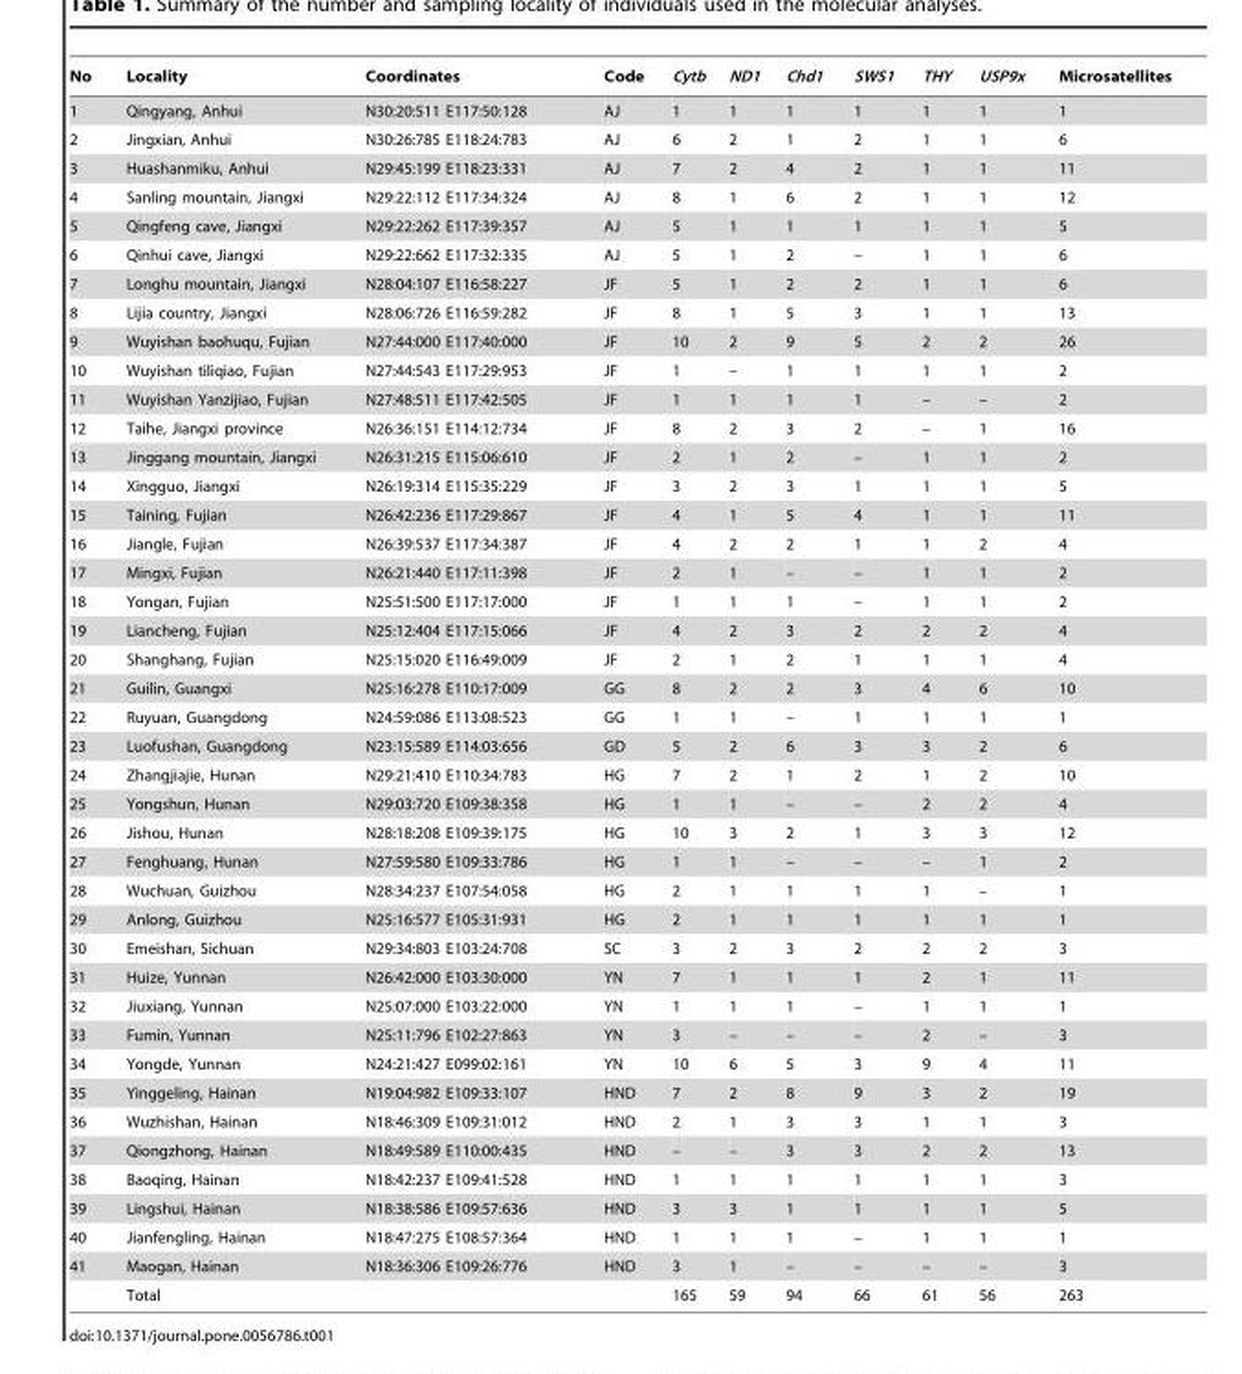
<table><thead><tr><td>No</td><td>Locality</td><td>Coordinates</td><td>Code</td><td>Cytb</td><td>ND1</td><td>Chd1</td><td>SWS1</td><td>THY</td><td>USP9x</td><td>Microsatellites</td></tr></thead><tbody><tr><td>1</td><td>Qingyang, Anhui</td><td>N30:20:511 E117:50:128</td><td>AJ</td><td>1</td><td>1</td><td>1</td><td>1</td><td>1</td><td>1</td><td>1</td></tr><tr><td>2</td><td>Jingxian, Anhui</td><td>N30:26:785 E118:24:783</td><td>AJ</td><td>6</td><td>2</td><td>1</td><td>2</td><td>1</td><td>1</td><td>6</td></tr><tr><td>3</td><td>Huashanmiku, Anhui</td><td>N29:45:199 E118:23:331</td><td>AJ</td><td>7</td><td>2</td><td>4</td><td>2</td><td>1</td><td>1</td><td>11</td></tr><tr><td>4</td><td>Sanling mountain, Jiangxi</td><td>N29:22:112 E117:34:324</td><td>AJ</td><td>8</td><td>1</td><td>6</td><td>2</td><td>1</td><td>1</td><td>12</td></tr><tr><td>5</td><td>Qingfeng cave, Jiangxi</td><td>N29:22:262 E117:39:357</td><td>AJ</td><td>5</td><td>1</td><td>1</td><td>1</td><td>1</td><td>1</td><td>5</td></tr><tr><td>6</td><td>Qinhui cave, Jiangxi</td><td>N29:22:662 E117:32:335</td><td>AJ</td><td>5</td><td>1</td><td>2</td><td>–</td><td>1</td><td>1</td><td>6</td></tr><tr><td>7</td><td>Longhu mountain, Jiangxi</td><td>N28:04:107 E116:58:227</td><td>JF</td><td>5</td><td>1</td><td>2</td><td>2</td><td>1</td><td>1</td><td>6</td></tr><tr><td>8</td><td>Lijia country, Jiangxi</td><td>N28:06:726 E116:59:282</td><td>JF</td><td>8</td><td>1</td><td>5</td><td>3</td><td>1</td><td>1</td><td>13</td></tr><tr><td>9</td><td>Wuyishan baohuqu, Fujian</td><td>N27:44:000 E117:40:000</td><td>JF</td><td>10</td><td>2</td><td>9</td><td>5</td><td>2</td><td>2</td><td>26</td></tr><tr><td>10</td><td>Wuyishan tiliqiao, Fujian</td><td>N27:44:543 E117:29:953</td><td>JF</td><td>1</td><td>–</td><td>1</td><td>1</td><td>1</td><td>1</td><td>2</td></tr><tr><td>11</td><td>Wuyishan Yanzijiao, Fujian</td><td>N27:48:511 E117:42:505</td><td>JF</td><td>1</td><td>1</td><td>1</td><td>1</td><td>–</td><td>–</td><td>2</td></tr><tr><td>12</td><td>Taihe, Jiangxi province</td><td>N26:36:151 E114:12:734</td><td>JF</td><td>8</td><td>2</td><td>3</td><td>2</td><td>–</td><td>1</td><td>16</td></tr><tr><td>13</td><td>Jinggang mountain, Jiangxi</td><td>N26:31:215 E115:06:610</td><td>JF</td><td>2</td><td>1</td><td>2</td><td>–</td><td>1</td><td>1</td><td>2</td></tr><tr><td>14</td><td>Xingguo, Jiangxi</td><td>N26:19:314 E115:35:229</td><td>JF</td><td>3</td><td>2</td><td>3</td><td>1</td><td>1</td><td>1</td><td>5</td></tr><tr><td>15</td><td>Taining, Fujian</td><td>N26:42:236 E117:29:867</td><td>JF</td><td>4</td><td>1</td><td>5</td><td>4</td><td>1</td><td>1</td><td>11</td></tr><tr><td>16</td><td>Jiangle, Fujian</td><td>N26:39:537 E117:34:387</td><td>JF</td><td>4</td><td>2</td><td>2</td><td>1</td><td>1</td><td>2</td><td>4</td></tr><tr><td>17</td><td>Mingxi, Fujian</td><td>N26:21:440 E117:11:398</td><td>JF</td><td>2</td><td>1</td><td>–</td><td>–</td><td>1</td><td>1</td><td>2</td></tr><tr><td>18</td><td>Yongan, Fujian</td><td>N25:51:500 E117:17:000</td><td>JF</td><td>1</td><td>1</td><td>1</td><td>–</td><td>1</td><td>1</td><td>2</td></tr><tr><td>19</td><td>Liancheng, Fujian</td><td>N25:12:404 E117:15:066</td><td>JF</td><td>4</td><td>2</td><td>3</td><td>2</td><td>2</td><td>2</td><td>4</td></tr><tr><td>20</td><td>Shanghang, Fujian</td><td>N25:15:020 E116:49:009</td><td>JF</td><td>2</td><td>1</td><td>2</td><td>1</td><td>1</td><td>1</td><td>4</td></tr><tr><td>21</td><td>Guilin, Guangxi</td><td>N25:16:278 E110:17:009</td><td>GG</td><td>8</td><td>2</td><td>2</td><td>3</td><td>4</td><td>6</td><td>10</td></tr><tr><td>22</td><td>Ruyuan, Guangdong</td><td>N24:59:086 E113:08:523</td><td>GG</td><td>1</td><td>1</td><td>–</td><td>1</td><td>1</td><td>1</td><td>1</td></tr><tr><td>23</td><td>Luofushan, Guangdong</td><td>N23:15:589 E114:03:656</td><td>GD</td><td>5</td><td>2</td><td>6</td><td>3</td><td>3</td><td>2</td><td>6</td></tr><tr><td>24</td><td>Zhangjiajie, Hunan</td><td>N29:21:410 E110:34:783</td><td>HG</td><td>7</td><td>2</td><td>1</td><td>2</td><td>1</td><td>2</td><td>10</td></tr><tr><td>25</td><td>Yongshun, Hunan</td><td>N29:03:720 E109:38:358</td><td>HG</td><td>1</td><td>1</td><td>–</td><td>–</td><td>2</td><td>2</td><td>4</td></tr><tr><td>26</td><td>Jishou, Hunan</td><td>N28:18:208 E109:39:175</td><td>HG</td><td>10</td><td>3</td><td>2</td><td>1</td><td>3</td><td>3</td><td>12</td></tr><tr><td>27</td><td>Fenghuang, Hunan</td><td>N27:59:580 E109:33:786</td><td>HG</td><td>1</td><td>1</td><td>–</td><td>–</td><td>–</td><td>1</td><td>2</td></tr><tr><td>28</td><td>Wuchuan, Guizhou</td><td>N28:34:237 E107:54:058</td><td>HG</td><td>2</td><td>1</td><td>1</td><td>1</td><td>1</td><td>–</td><td>1</td></tr><tr><td>29</td><td>Anlong, Guizhou</td><td>N25:16:577 E105:31:931</td><td>HG</td><td>2</td><td>1</td><td>1</td><td>1</td><td>1</td><td>1</td><td>1</td></tr><tr><td>30</td><td>Emeishan, Sichuan</td><td>N29:34:803 E103:24:708</td><td>SC</td><td>3</td><td>2</td><td>3</td><td>2</td><td>2</td><td>2</td><td>3</td></tr><tr><td>31</td><td>Huize, Yunnan</td><td>N26:42:000 E103:30:000</td><td>YN</td><td>7</td><td>1</td><td>1</td><td>1</td><td>2</td><td>1</td><td>11</td></tr><tr><td>32</td><td>Jiuxiang, Yunnan</td><td>N25:07:000 E103:22:000</td><td>YN</td><td>1</td><td>1</td><td>1</td><td>–</td><td>1</td><td>1</td><td>1</td></tr><tr><td>33</td><td>Fumin, Yunnan</td><td>N25:11:796 E102:27:863</td><td>YN</td><td>3</td><td>–</td><td>–</td><td>–</td><td>2</td><td>–</td><td>3</td></tr><tr><td>34</td><td>Yongde, Yunnan</td><td>N24:21:427 E099:02:161</td><td>YN</td><td>10</td><td>6</td><td>5</td><td>3</td><td>9</td><td>4</td><td>11</td></tr><tr><td>35</td><td>Yinggeling, Hainan</td><td>N19:04:982 E109:33:107</td><td>HND</td><td>7</td><td>2</td><td>8</td><td>9</td><td>3</td><td>2</td><td>19</td></tr><tr><td>36</td><td>Wuzhishan, Hainan</td><td>N18:46:309 E109:31:012</td><td>HND</td><td>2</td><td>1</td><td>3</td><td>3</td><td>1</td><td>1</td><td>3</td></tr><tr><td>37</td><td>Qiongzhong, Hainan</td><td>N18:49:589 E110:00:435</td><td>HND</td><td>–</td><td>–</td><td>3</td><td>3</td><td>2</td><td>2</td><td>13</td></tr><tr><td>38</td><td>Baoqing, Hainan</td><td>N18:42:237 E109:41:528</td><td>HND</td><td>1</td><td>1</td><td>1</td><td>1</td><td>1</td><td>1</td><td>3</td></tr><tr><td>39</td><td>Lingshui, Hainan</td><td>N18:38:586 E109:57:636</td><td>HND</td><td>3</td><td>3</td><td>1</td><td>1</td><td>1</td><td>1</td><td>5</td></tr><tr><td>40</td><td>Jianfengling, Hainan</td><td>N18:47:275 E108:57:364</td><td>HND</td><td>1</td><td>1</td><td>1</td><td>–</td><td>1</td><td>1</td><td>1</td></tr><tr><td rowspan="2">41</td><td>Maogan, Hainan</td><td>N18:36:306 E109:26:776</td><td>HND</td><td>3</td><td>1</td><td>–</td><td>–</td><td>–</td><td>–</td><td>3</td></tr><tr><td>Total</td><td></td><td></td><td>165</td><td>59</td><td>94</td><td>66</td><td>61</td><td>56</td><td>263</td></tr></tbody></table>